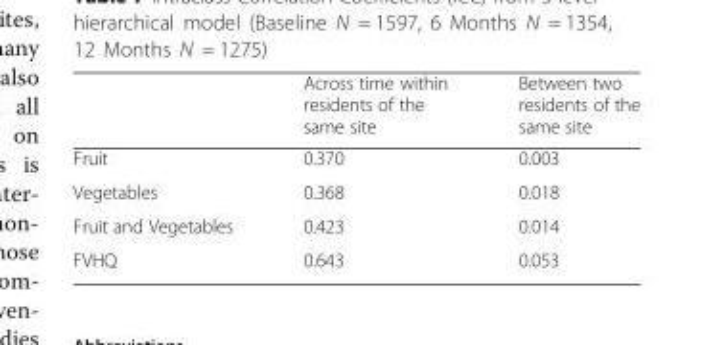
<table><thead><tr><td></td><td>Across time within residents of the same site</td><td>Between two residents of the same site</td></tr></thead><tbody><tr><td>Fruit</td><td>0.370</td><td>0.003</td></tr><tr><td>Vegetables</td><td>0.368</td><td>0.018</td></tr><tr><td>Fruit and Vegetables</td><td>0.423</td><td>0.014</td></tr><tr><td>FVHQ</td><td>0.643</td><td>0.053</td></tr></tbody></table>